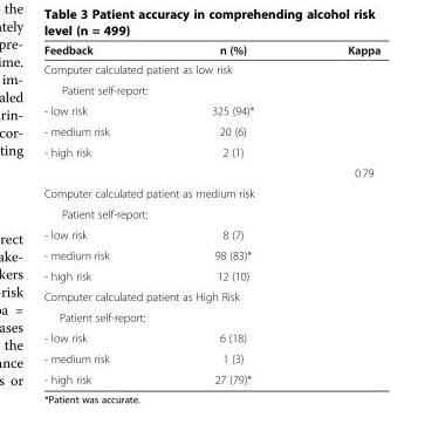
<table><thead><tr><td>Feedback</td><td>n (%)</td><td>Kappa</td></tr></thead><tbody><tr><td colspan="3">Computer calculated patient as low risk</td></tr><tr><td colspan="3">Patient self-report:</td></tr><tr><td>- low risk</td><td>325 (94)*</td><td></td></tr><tr><td>- medium risk</td><td>20 (6)</td><td></td></tr><tr><td rowspan="2">- high risk</td><td>2 (1)</td><td></td></tr><tr><td></td><td>0.79</td></tr><tr><td colspan="3">Computer calculated patient as medium risk</td></tr><tr><td colspan="3">Patient self-report:</td></tr><tr><td>- low risk</td><td>8 (7)</td><td></td></tr><tr><td>- medium risk</td><td>98 (83)*</td><td></td></tr><tr><td>- high risk</td><td>12 (10)</td><td></td></tr><tr><td colspan="3">Computer calculated patient as High Risk</td></tr><tr><td colspan="3">Patient self-report:</td></tr><tr><td>- low risk</td><td>6 (18)</td><td></td></tr><tr><td>- medium risk</td><td>1 (3)</td><td></td></tr><tr><td>- high risk</td><td>27 (79)*</td><td></td></tr></tbody></table>